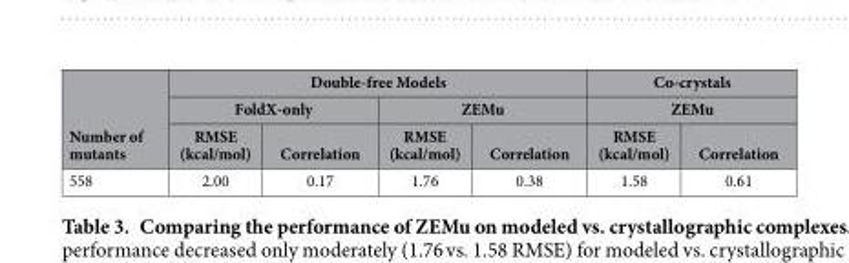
<table><thead><tr><td rowspan="3">Number of mutants</td><td colspan="4">Double-free Models</td><td rowspan="2" colspan="2">Co-crystals ZEMu</td></tr><tr><td colspan="2">FoldX-only</td><td colspan="2">ZEMu</td></tr><tr><td>RMSE (kcal/mol)</td><td>Correlation</td><td>RMSE (kcal/mol)</td><td>Correlation</td><td>RMSE (kcal/mol)</td><td>Correlation</td></tr></thead><tbody><tr><td>558</td><td>2.00</td><td>0.17</td><td>1.76</td><td>0.38</td><td>1.58</td><td>0.61</td></tr></tbody></table>